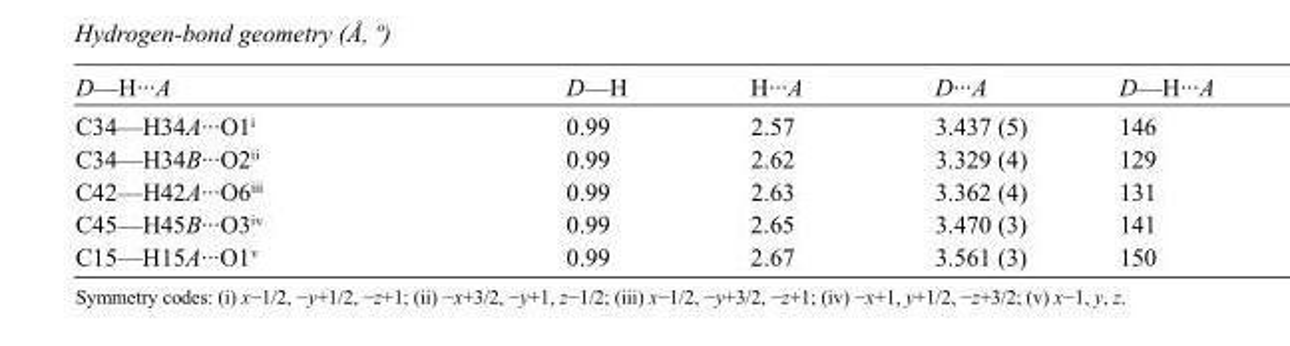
<table><tbody><tr><td>D—H···A</td><td>D—H</td><td>H···A</td><td>D···A</td><td>D—H···A</td></tr><tr><td>C34—H34A···O1<sup>i</sup></td><td>0.99</td><td>2.57</td><td>3.437 (5)</td><td>146</td></tr><tr><td>C34—H34B···O2<sup>ii</sup></td><td>0.99</td><td>2.62</td><td>3.329 (4)</td><td>129</td></tr><tr><td>C42—H42A···O6<sup>iii</sup></td><td>0.99</td><td>2.63</td><td>3.362 (4)</td><td>131</td></tr><tr><td>C45—H45B···O3<sup>iv</sup></td><td>0.99</td><td>2.65</td><td>3.470 (3)</td><td>141</td></tr><tr><td>C15—H15A···O1<sup>v</sup></td><td>0.99</td><td>2.67</td><td>3.561 (3)</td><td>150</td></tr></tbody></table>